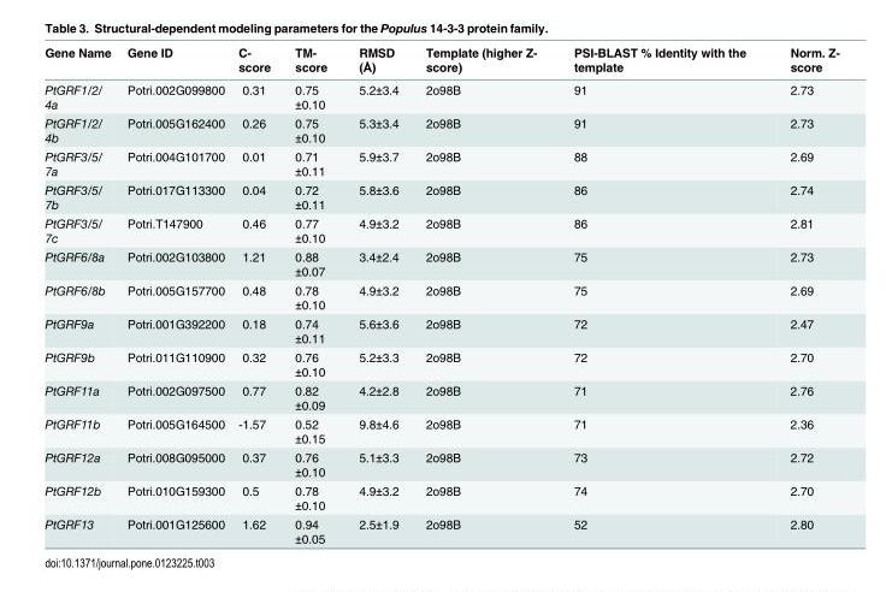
<table><thead><tr><td>Gene Name</td><td>Gene ID</td><td>C- score</td><td>TM- score</td><td>RMSD (Å)</td><td>Template (higher Z- score)</td><td>PSI-BLAST % Identity with the template</td><td>Norm. Z- score</td></tr></thead><tbody><tr><td>PtGRF1/2/ 4a</td><td>Potri.002G099800</td><td>0.31</td><td>0.75 ±0.10</td><td>5.2±3.4</td><td>2o98B</td><td>91</td><td>2.73</td></tr><tr><td>PtGRF1/2/ 4b</td><td>Potri.005G162400</td><td>0.26</td><td>0.75 ±0.10</td><td>5.3±3.4</td><td>2o98B</td><td>91</td><td>2.73</td></tr><tr><td>PtGRF3/5/ 7a</td><td>Potri.004G101700</td><td>0.01</td><td>0.71 ±0.11</td><td>5.9±3.7</td><td>2o98B</td><td>88</td><td>2.69</td></tr><tr><td>PtGRF3/5/ 7b</td><td>Potri.017G113300</td><td>0.04</td><td>0.72 ±0.11</td><td>5.8±3.6</td><td>2o98B</td><td>86</td><td>2.74</td></tr><tr><td>PtGRF3/5/ 7c</td><td>Potri.T147900</td><td>0.46</td><td>0.77 ±0.10</td><td>4.9±3.2</td><td>2o98B</td><td>86</td><td>2.81</td></tr><tr><td>PtGRF6/8a</td><td>Potri.002G103800</td><td>1.21</td><td>0.88 ±0.07</td><td>3.4±2.4</td><td>2o98B</td><td>75</td><td>2.73</td></tr><tr><td>PtGRF6/8b</td><td>Potri.005G157700</td><td>0.48</td><td>0.78 ±0.10</td><td>4.9±3.2</td><td>2o98B</td><td>75</td><td>2.69</td></tr><tr><td>PtGRF9a</td><td>Potri.001G392200</td><td>0.18</td><td>0.74 ±0.11</td><td>5.6±3.6</td><td>2o98B</td><td>72</td><td>2.47</td></tr><tr><td>PtGRF9b</td><td>Potri.011G110900</td><td>0.32</td><td>0.76 ±0.10</td><td>5.2±3.3</td><td>2o98B</td><td>72</td><td>2.70</td></tr><tr><td>PtGRF11a</td><td>Potri.002G097500</td><td>0.77</td><td>0.82 ±0.09</td><td>4.2±2.8</td><td>2o98B</td><td>71</td><td>2.76</td></tr><tr><td>PtGRF11b</td><td>Potri.005G164500</td><td>-1.57</td><td>0.52 ±0.15</td><td>9.8±4.6</td><td>2o98B</td><td>71</td><td>2.36</td></tr><tr><td>PtGRF12a</td><td>Potri.008G095000</td><td>0.37</td><td>0.76 ±0.10</td><td>5.1±3.3</td><td>2o98B</td><td>73</td><td>2.72</td></tr><tr><td>PtGRF12b</td><td>Potri.010G159300</td><td>0.5</td><td>0.78 ±0.10</td><td>4.9±3.2</td><td>2o98B</td><td>74</td><td>2.70</td></tr><tr><td>PtGRF13</td><td>Potri.001G125600</td><td>1.62</td><td>0.94 ±0.05</td><td>2.5±1.9</td><td>2o98B</td><td>52</td><td>2.80</td></tr></tbody></table>